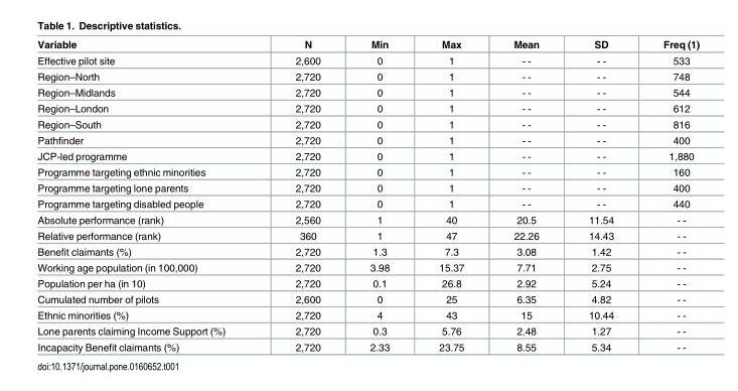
<table><thead><tr><td>Variable</td><td>N</td><td>Min</td><td>Max</td><td>Mean</td><td>SD</td><td>Freq (1)</td></tr></thead><tbody><tr><td>Effective pilot site</td><td>2,600</td><td>0</td><td>1</td><td>- -</td><td>- -</td><td>533</td></tr><tr><td>Region–North</td><td>2,720</td><td>0</td><td>1</td><td>- -</td><td>- -</td><td>748</td></tr><tr><td>Region–Midlands</td><td>2,720</td><td>0</td><td>1</td><td>- -</td><td>- -</td><td>544</td></tr><tr><td>Region–London</td><td>2,720</td><td>0</td><td>1</td><td>- -</td><td>- -</td><td>612</td></tr><tr><td>Region–South</td><td>2,720</td><td>0</td><td>1</td><td>- -</td><td>- -</td><td>816</td></tr><tr><td>Pathfinder</td><td>2,720</td><td>0</td><td>1</td><td>- -</td><td>- -</td><td>400</td></tr><tr><td>JCP-led programme</td><td>2,720</td><td>0</td><td>1</td><td>- -</td><td>- -</td><td>1,880</td></tr><tr><td>Programme targeting ethnic minorities</td><td>2,720</td><td>0</td><td>1</td><td>- -</td><td>- -</td><td>160</td></tr><tr><td>Programme targeting lone parents</td><td>2,720</td><td>0</td><td>1</td><td>- -</td><td>- -</td><td>400</td></tr><tr><td>Programme targeting disabled people</td><td>2,720</td><td>0</td><td>1</td><td>- -</td><td>- -</td><td>440</td></tr><tr><td>Absolute performance (rank)</td><td>2,560</td><td>1</td><td>40</td><td>20.5</td><td>11.54</td><td>- -</td></tr><tr><td>Relative performance (rank)</td><td>360</td><td>1</td><td>47</td><td>22.26</td><td>14.43</td><td>- -</td></tr><tr><td>Benefit claimants (%)</td><td>2,720</td><td>1.3</td><td>7.3</td><td>3.08</td><td>1.42</td><td>- -</td></tr><tr><td>Working age population (in 100,000)</td><td>2,720</td><td>3.98</td><td>15.37</td><td>7.71</td><td>2.75</td><td>- -</td></tr><tr><td>Population per ha (in 10)</td><td>2,720</td><td>0.1</td><td>26.8</td><td>2.92</td><td>5.24</td><td>- -</td></tr><tr><td>Cumulated number of pilots</td><td>2,600</td><td>0</td><td>25</td><td>6.35</td><td>4.82</td><td>- -</td></tr><tr><td>Ethnic minorities (%)</td><td>2,720</td><td>4</td><td>43</td><td>15</td><td>10.44</td><td>- -</td></tr><tr><td>Lone parents claiming Income Support (%)</td><td>2,720</td><td>0.3</td><td>5.76</td><td>2.48</td><td>1.27</td><td>- -</td></tr><tr><td>Incapacity Benefit claimants (%)</td><td>2,720</td><td>2.33</td><td>23.75</td><td>8.55</td><td>5.34</td><td>- -</td></tr></tbody></table>